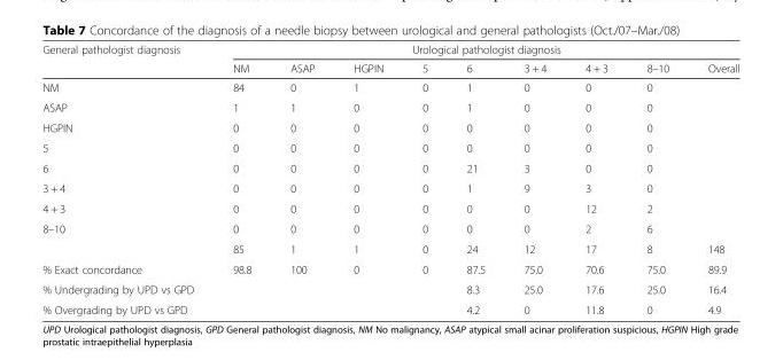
<table><thead><tr><td rowspan="2">General pathologist diagnosis</td><td colspan="9">Urological pathologist diagnosis</td></tr><tr><td>NM</td><td>ASAP</td><td>HGPIN</td><td>5</td><td>6</td><td>3 + 4</td><td>4 + 3</td><td>8–10</td><td>Overall</td></tr></thead><tbody><tr><td>NM</td><td>84</td><td>0</td><td>1</td><td>0</td><td>1</td><td>0</td><td>0</td><td>0</td><td></td></tr><tr><td>ASAP</td><td>1</td><td>1</td><td>0</td><td>0</td><td>1</td><td>0</td><td>0</td><td>0</td><td></td></tr><tr><td>HGPIN</td><td>0</td><td>0</td><td>0</td><td>0</td><td>0</td><td>0</td><td>0</td><td>0</td><td></td></tr><tr><td>5</td><td>0</td><td>0</td><td>0</td><td>0</td><td>0</td><td>0</td><td>0</td><td>0</td><td></td></tr><tr><td>6</td><td>0</td><td>0</td><td>0</td><td>0</td><td>21</td><td>3</td><td>0</td><td>0</td><td></td></tr><tr><td>3 + 4</td><td>0</td><td>0</td><td>0</td><td>0</td><td>1</td><td>9</td><td>3</td><td>0</td><td></td></tr><tr><td>4 + 3</td><td>0</td><td>0</td><td>0</td><td>0</td><td>0</td><td>0</td><td>12</td><td>2</td><td></td></tr><tr><td rowspan="2">8–10</td><td>0</td><td>0</td><td>0</td><td>0</td><td>0</td><td>0</td><td>2</td><td>6</td><td></td></tr><tr><td>85</td><td>1</td><td>1</td><td>0</td><td>24</td><td>12</td><td>17</td><td>8</td><td>148</td></tr><tr><td>% Exact concordance</td><td>98.8</td><td>100</td><td>0</td><td>0</td><td>87.5</td><td>75.0</td><td>70.6</td><td>75.0</td><td>89.9</td></tr><tr><td>% Undergrading by UPD vs GPD</td><td></td><td></td><td></td><td></td><td>8.3</td><td>25.0</td><td>17.6</td><td>25.0</td><td>16.4</td></tr><tr><td>% Overgrading by UPD vs GPD</td><td></td><td></td><td></td><td></td><td>4.2</td><td>0</td><td>11.8</td><td>0</td><td>4.9</td></tr></tbody></table>